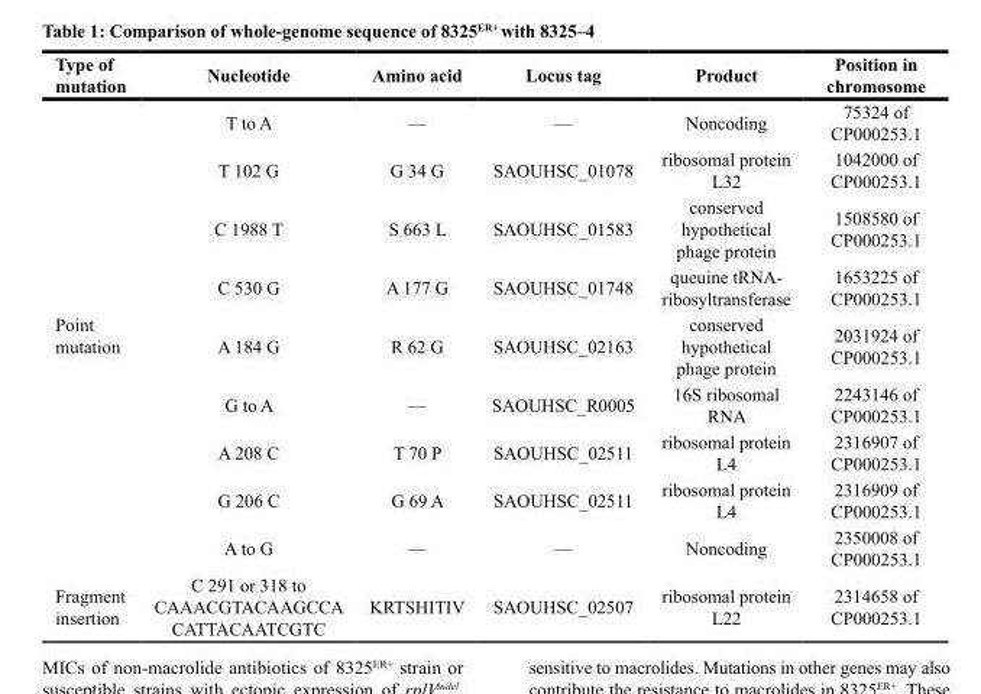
<table><thead><tr><td>Type of mutation</td><td>Nucleotide</td><td>Amino acid</td><td>Locus tag</td><td>Product</td><td>Position in chromosome</td></tr></thead><tbody><tr><td rowspan="9">Point mutation</td><td>T to A</td><td>—</td><td>—</td><td>Noncoding</td><td>75324 of CP000253.1</td></tr><tr><td>T 102 G</td><td>G 34 G</td><td>SAOUHSC_01078</td><td>ribosomal protein L32</td><td>1042000 of CP000253.1</td></tr><tr><td>C 1988 T</td><td>S 663 L</td><td>SAOUHSC_01583</td><td>conserved hypothetical phage protein</td><td>1508580 of CP000253.1</td></tr><tr><td>C 530 G</td><td>A 177 G</td><td>SAOUHSC_01748</td><td>queuine tRNA- ribosyltransferase</td><td>1653225 of CP000253.1</td></tr><tr><td>A 184 G</td><td>R 62 G</td><td>SAOUHSC_02163</td><td>conserved hypothetical phage protein</td><td>2031924 of CP000253.1</td></tr><tr><td>G to A</td><td>—</td><td>SAOUHSC_R0005</td><td>16S ribosomal RNA</td><td>2243146 of CP000253.1</td></tr><tr><td>A 208 C</td><td>T 70 P</td><td>SAOUHSC_02511</td><td>ribosomal protein L4</td><td>2316907 of CP000253.1</td></tr><tr><td>G 206 C</td><td>G 69 A</td><td>SAOUHSC_02511</td><td>ribosomal protein L4</td><td>2316909 of CP000253.1</td></tr><tr><td>A to G</td><td>—</td><td>—</td><td>Noncoding</td><td>2350008 of CP000253.1</td></tr><tr><td>Fragment insertion</td><td>C 291 or 318 to CAAACGTACAAGCCA CATTACAATCGTC</td><td>KRTSHITIV</td><td>SAOUHSC_02507</td><td>ribosomal protein L22</td><td>2314658 of CP000253.1</td></tr></tbody></table>